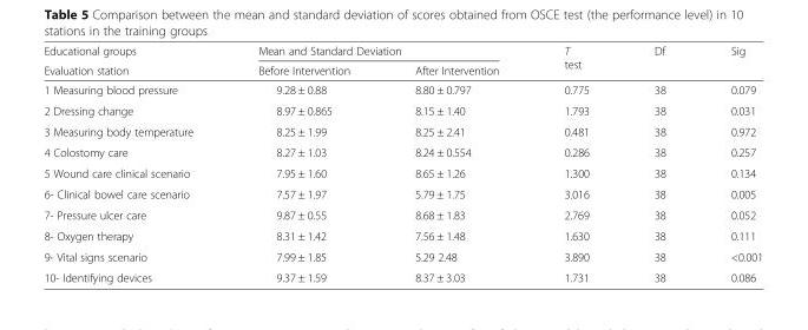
<table><thead><tr><td rowspan="2">Educational groups Evaluation station</td><td colspan="2">Mean and Standard Deviation</td><td rowspan="2">T test</td><td rowspan="2">Df</td><td rowspan="2">Sig</td></tr><tr><td>Before Intervention</td><td>After Intervention</td></tr></thead><tbody><tr><td>1 Measuring blood pressure</td><td>9.28 ± 0.88</td><td>8.80 ± 0.797</td><td>0.775</td><td>38</td><td>0.079</td></tr><tr><td>2 Dressing change</td><td>8.97 ± 0.865</td><td>8.15 ± 1.40</td><td>1.793</td><td>38</td><td>0.031</td></tr><tr><td>3 Measuring body temperature</td><td>8.25 ± 1.99</td><td>8.25 ± 2.41</td><td>0.481</td><td>38</td><td>0.972</td></tr><tr><td>4 Colostomy care</td><td>8.27 ± 1.03</td><td>8.24 ± 0.554</td><td>0.286</td><td>38</td><td>0.257</td></tr><tr><td>5 Wound care clinical scenario</td><td>7.95 ± 1.60</td><td>8.65 ± 1.26</td><td>1.300</td><td>38</td><td>0.134</td></tr><tr><td>6- Clinical bowel care scenario</td><td>7.57 ± 1.97</td><td>5.79 ± 1.75</td><td>3.016</td><td>38</td><td>0.005</td></tr><tr><td>7- Pressure ulcer care</td><td>9.87 ± 0.55</td><td>8.68 ± 1.83</td><td>2.769</td><td>38</td><td>0.052</td></tr><tr><td>8- Oxygen therapy</td><td>8.31 ± 1.42</td><td>7.56 ± 1.48</td><td>1.630</td><td>38</td><td>0.111</td></tr><tr><td>9- Vital signs scenario</td><td>7.99 ± 1.85</td><td>5.29 2.48</td><td>3.890</td><td>38</td><td>&lt;0.001</td></tr><tr><td>10- Identifying devices</td><td>9.37 ± 1.59</td><td>8.37 ± 3.03</td><td>1.731</td><td>38</td><td>0.086</td></tr></tbody></table>